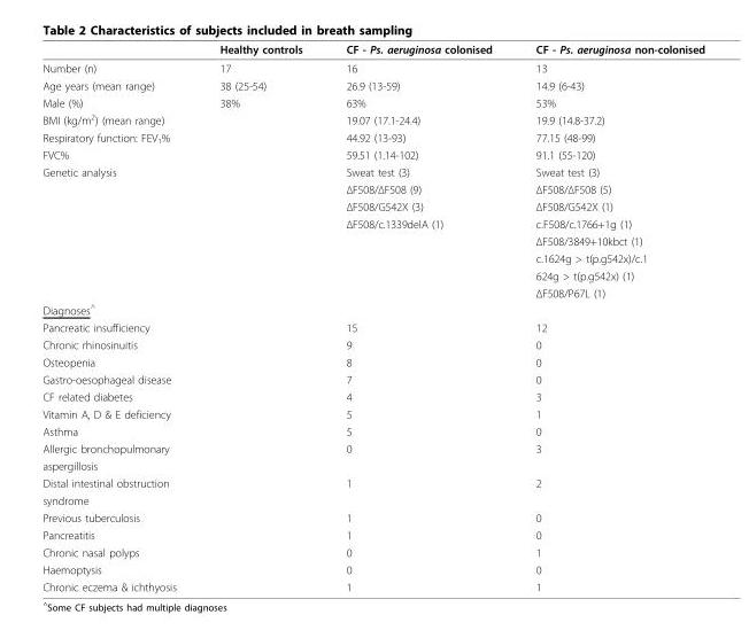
<table><thead><tr><td></td><td>Healthy controls</td><td>CF - Ps. aeruginosa colonised</td><td>CF - Ps. aeruginosa non-colonised</td></tr></thead><tbody><tr><td>Number (n)</td><td>17</td><td>16</td><td>13</td></tr><tr><td>Age years (mean range)</td><td>38 (25-54)</td><td>26.9 (13-59)</td><td>14.9 (6-43)</td></tr><tr><td>Male (%)</td><td>38%</td><td>63%</td><td>53%</td></tr><tr><td>BMI (kg/m<sup>2</sup>) (mean range)</td><td></td><td>19.07 (17.1-24.4)</td><td>19.9 (14.8-37.2)</td></tr><tr><td>Respiratory function: FEV<sub>1</sub>%</td><td></td><td>44.92 (13-93)</td><td>77.15 (48-99)</td></tr><tr><td>FVC%</td><td></td><td>59.51 (1.14-102)</td><td>91.1 (55-120)</td></tr><tr><td rowspan="8">Genetic analysis</td><td></td><td>Sweat test (3)</td><td>Sweat test (3)</td></tr><tr><td></td><td>ΔF508/ΔF508 (9)</td><td>ΔF508/ΔF508 (5)</td></tr><tr><td></td><td>ΔF508/G542X (3)</td><td>ΔF508/G542X (1)</td></tr><tr><td></td><td>ΔF508/c.1339delA (1)</td><td>c.F508/c.1766+1g (1)</td></tr><tr><td></td><td></td><td>ΔF508/3849+10kbct (1)</td></tr><tr><td></td><td></td><td>c.1624g &gt; t(p.g542x)/c.1</td></tr><tr><td></td><td></td><td>624g &gt; t(p.g542x) (1)</td></tr><tr><td></td><td></td><td>ΔF508/P67L (1)</td></tr><tr><td colspan="4">Diagnoses<sup>^</sup></td></tr><tr><td>Pancreatic insufficiency</td><td></td><td>15</td><td>12</td></tr><tr><td>Chronic rhinosinuitis</td><td></td><td>9</td><td>0</td></tr><tr><td>Osteopenia</td><td></td><td>8</td><td>0</td></tr><tr><td>Gastro-oesophageal disease</td><td></td><td>7</td><td>0</td></tr><tr><td>CF related diabetes</td><td></td><td>4</td><td>3</td></tr><tr><td>Vitamin A, D &amp; E deficiency</td><td></td><td>5</td><td>1</td></tr><tr><td>Asthma</td><td></td><td>5</td><td>0</td></tr><tr><td>Allergic bronchopulmonary</td><td></td><td>0</td><td>3</td></tr><tr><td colspan="4">aspergillosis</td></tr><tr><td>Distal intestinal obstruction</td><td></td><td>1</td><td>2</td></tr><tr><td colspan="4">syndrome</td></tr><tr><td>Previous tuberculosis</td><td></td><td>1</td><td>0</td></tr><tr><td>Pancreatitis</td><td></td><td>1</td><td>0</td></tr><tr><td>Chronic nasal polyps</td><td></td><td>0</td><td>1</td></tr><tr><td>Haemoptysis</td><td></td><td>0</td><td>0</td></tr><tr><td>Chronic eczema &amp; ichthyosis</td><td></td><td>1</td><td>1</td></tr></tbody></table>